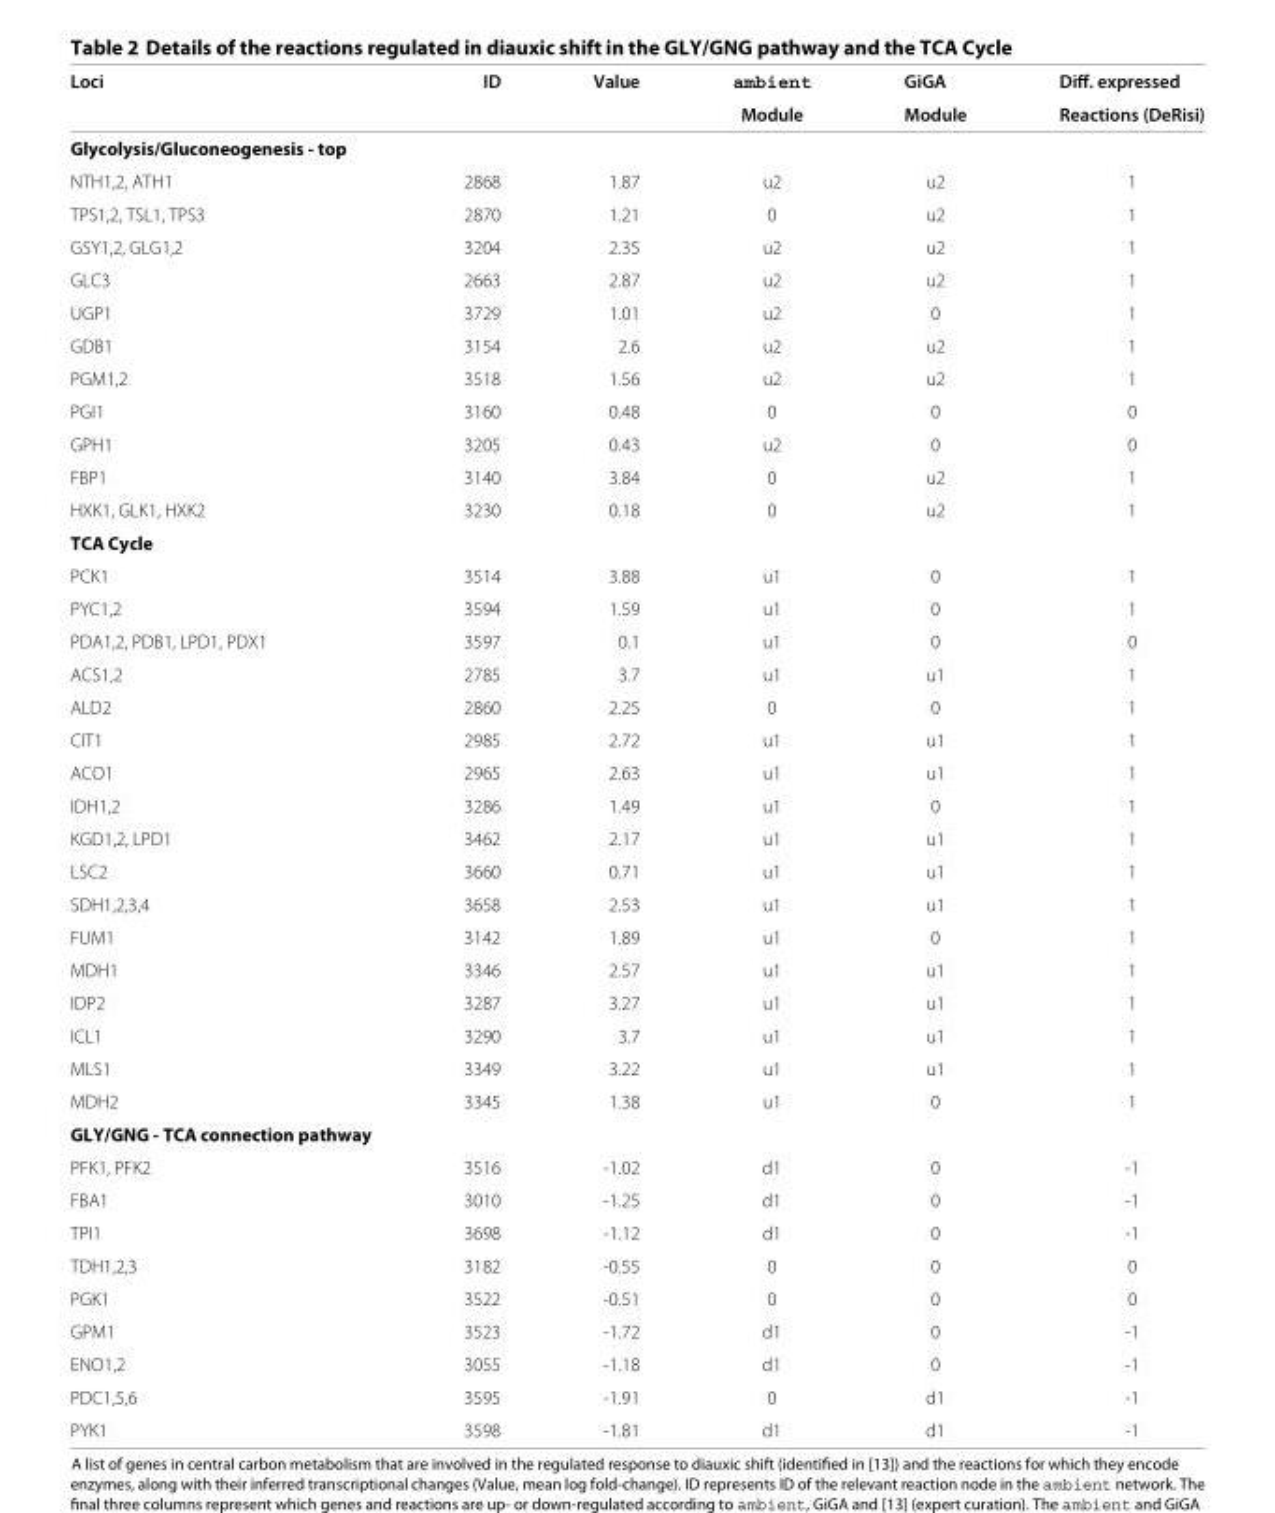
<table><thead><tr><td rowspan="2">Loci</td><td rowspan="2">ID</td><td rowspan="2">Value</td><td rowspan="2">ambient Module</td><td rowspan="2">GiGA Module</td><td rowspan="2">Diff. expressed Reactions (DeRisi)</td></tr><tr></tr></thead><tbody><tr><td colspan="6">Glycolysis/Gluconeogenesis - top</td></tr><tr><td>NTH1,2, ATH1</td><td>2868</td><td>1.87</td><td>u2</td><td>u2</td><td>1</td></tr><tr><td>TPS1,2, TSL1, TPS3</td><td>2870</td><td>1.21</td><td>0</td><td>u2</td><td>1</td></tr><tr><td>GSY1,2, GLG1,2</td><td>3204</td><td>2.35</td><td>u2</td><td>u2</td><td>1</td></tr><tr><td>GLC3</td><td>2663</td><td>2.87</td><td>u2</td><td>u2</td><td>1</td></tr><tr><td>UGP1</td><td>3729</td><td>1.01</td><td>u2</td><td>0</td><td>1</td></tr><tr><td>GDB1</td><td>3154</td><td>2.6</td><td>u2</td><td>u2</td><td>1</td></tr><tr><td>PGM1,2</td><td>3518</td><td>1.56</td><td>u2</td><td>u2</td><td>1</td></tr><tr><td>PGI1</td><td>3160</td><td>0.48</td><td>0</td><td>0</td><td>0</td></tr><tr><td>GPH1</td><td>3205</td><td>0.43</td><td>u2</td><td>0</td><td>0</td></tr><tr><td>FBP1</td><td>3140</td><td>3.84</td><td>0</td><td>u2</td><td>1</td></tr><tr><td>HXK1, GLK1, HXK2</td><td>3230</td><td>0.18</td><td>0</td><td>u2</td><td>1</td></tr><tr><td colspan="6">TCA Cycle</td></tr><tr><td>PCK1</td><td>3514</td><td>3.88</td><td>u1</td><td>0</td><td>1</td></tr><tr><td>PYC1,2</td><td>3594</td><td>1.59</td><td>u1</td><td>0</td><td>1</td></tr><tr><td>PDA1,2, PDB1, LPD1, PDX1</td><td>3597</td><td>0.1</td><td>u1</td><td>0</td><td>0</td></tr><tr><td>ACS1,2</td><td>2785</td><td>3.7</td><td>u1</td><td>u1</td><td>1</td></tr><tr><td>ALD2</td><td>2860</td><td>2.25</td><td>0</td><td>0</td><td>1</td></tr><tr><td>CIT1</td><td>2985</td><td>2.72</td><td>u1</td><td>u1</td><td>1</td></tr><tr><td>ACO1</td><td>2965</td><td>2.63</td><td>u1</td><td>u1</td><td>1</td></tr><tr><td>IDH1,2</td><td>3286</td><td>1.49</td><td>u1</td><td>0</td><td>1</td></tr><tr><td>KGD1,2, LPD1</td><td>3462</td><td>2.17</td><td>u1</td><td>u1</td><td>1</td></tr><tr><td>LSC2</td><td>3660</td><td>0.71</td><td>u1</td><td>u1</td><td>1</td></tr><tr><td>SDH1,2,3,4</td><td>3658</td><td>2.53</td><td>u1</td><td>u1</td><td>1</td></tr><tr><td>FUM1</td><td>3142</td><td>1.89</td><td>u1</td><td>0</td><td>1</td></tr><tr><td>MDH1</td><td>3346</td><td>2.57</td><td>u1</td><td>u1</td><td>1</td></tr><tr><td>IDP2</td><td>3287</td><td>3.27</td><td>u1</td><td>u1</td><td>1</td></tr><tr><td>ICL1</td><td>3290</td><td>3.7</td><td>u1</td><td>u1</td><td>1</td></tr><tr><td>MLS1</td><td>3349</td><td>3.22</td><td>u1</td><td>u1</td><td>1</td></tr><tr><td>MDH2</td><td>3345</td><td>1.38</td><td>u1</td><td>0</td><td>1</td></tr><tr><td colspan="6">GLY/GNG - TCA connection pathway</td></tr><tr><td>PFK1, PFK2</td><td>3516</td><td>-1.02</td><td>d1</td><td>0</td><td>-1</td></tr><tr><td>FBA1</td><td>3010</td><td>-1.25</td><td>d1</td><td>0</td><td>-1</td></tr><tr><td>TPI1</td><td>3698</td><td>-1.12</td><td>d1</td><td>0</td><td>-1</td></tr><tr><td>TDH1,2,3</td><td>3182</td><td>-0.55</td><td>0</td><td>0</td><td>0</td></tr><tr><td>PGK1</td><td>3522</td><td>-0.51</td><td>0</td><td>0</td><td>0</td></tr><tr><td>GPM1</td><td>3523</td><td>-1.72</td><td>d1</td><td>0</td><td>-1</td></tr><tr><td>ENO1,2</td><td>3055</td><td>-1.18</td><td>d1</td><td>0</td><td>-1</td></tr><tr><td>PDC1,5,6</td><td>3595</td><td>-1.91</td><td>0</td><td>d1</td><td>-1</td></tr><tr><td>PYK1</td><td>3598</td><td>-1.81</td><td>d1</td><td>d1</td><td>-1</td></tr></tbody></table>